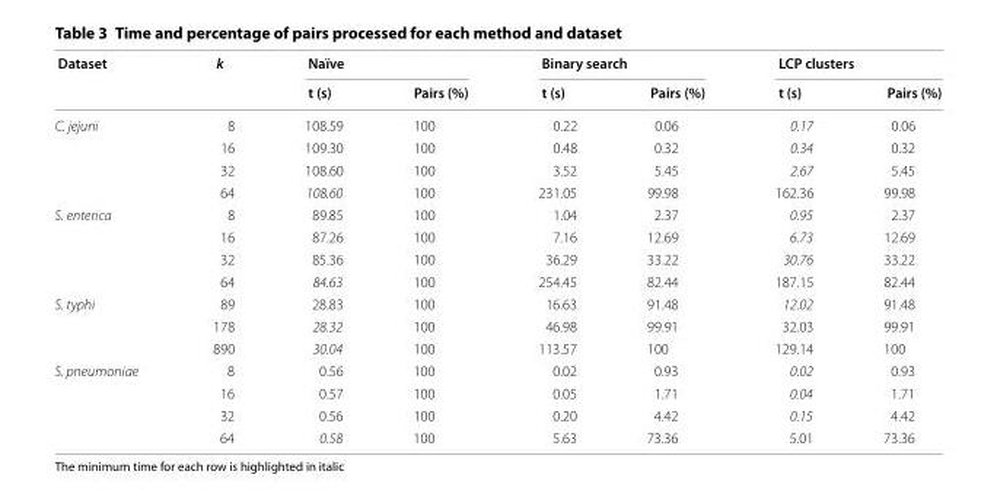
<table><thead><tr><td rowspan="2">Dataset</td><td rowspan="2">k</td><td colspan="2">Naïve</td><td colspan="2">Binary search</td><td colspan="2">LCP clusters</td></tr><tr><td>t (s)</td><td>Pairs (%)</td><td>t (s)</td><td>Pairs (%)</td><td>t (s)</td><td>Pairs (%)</td></tr></thead><tbody><tr><td rowspan="4">C. jejuni</td><td>8</td><td>108.59</td><td>100</td><td>0.22</td><td>0.06</td><td>0.17</td><td>0.06</td></tr><tr><td>16</td><td>109.30</td><td>100</td><td>0.48</td><td>0.32</td><td>0.34</td><td>0.32</td></tr><tr><td>32</td><td>108.60</td><td>100</td><td>3.52</td><td>5.45</td><td>2.67</td><td>5.45</td></tr><tr><td>64</td><td>108.60</td><td>100</td><td>231.05</td><td>99.98</td><td>162.36</td><td>99.98</td></tr><tr><td rowspan="4">S. enterica</td><td>8</td><td>89.85</td><td>100</td><td>1.04</td><td>2.37</td><td>0.95</td><td>2.37</td></tr><tr><td>16</td><td>87.26</td><td>100</td><td>7.16</td><td>12.69</td><td>6.73</td><td>12.69</td></tr><tr><td>32</td><td>85.36</td><td>100</td><td>36.29</td><td>33.22</td><td>30.76</td><td>33.22</td></tr><tr><td>64</td><td>84.63</td><td>100</td><td>254.45</td><td>82.44</td><td>187.15</td><td>82.44</td></tr><tr><td rowspan="3">S. typhi</td><td>89</td><td>28.83</td><td>100</td><td>16.63</td><td>91.48</td><td>12.02</td><td>91.48</td></tr><tr><td>178</td><td>28.32</td><td>100</td><td>46.98</td><td>99.91</td><td>32.03</td><td>99.91</td></tr><tr><td>890</td><td>30.04</td><td>100</td><td>113.57</td><td>100</td><td>129.14</td><td>100</td></tr><tr><td rowspan="4">S. pneumoniae</td><td>8</td><td>0.56</td><td>100</td><td>0.02</td><td>0.93</td><td>0.02</td><td>0.93</td></tr><tr><td>16</td><td>0.57</td><td>100</td><td>0.05</td><td>1.71</td><td>0.04</td><td>1.71</td></tr><tr><td>32</td><td>0.56</td><td>100</td><td>0.20</td><td>4.42</td><td>0.15</td><td>4.42</td></tr><tr><td>64</td><td>0.58</td><td>100</td><td>5.63</td><td>73.36</td><td>5.01</td><td>73.36</td></tr></tbody></table>